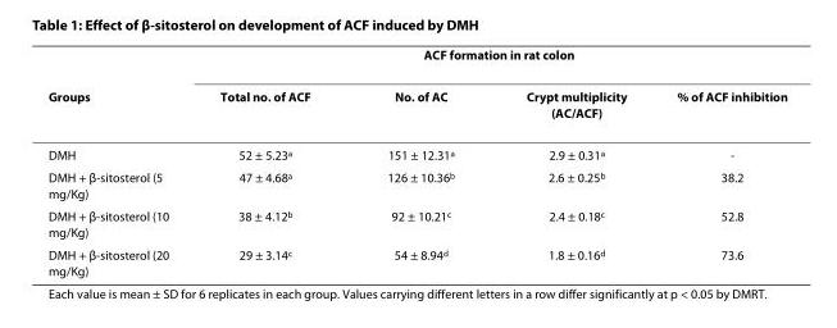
<table><thead><tr><td rowspan="2">Groups</td><td colspan="4">ACF formation in rat colon</td></tr><tr><td>Total no. of ACF</td><td>No. of AC</td><td>Crypt multiplicity (AC/ACF)</td><td>% of ACF inhibition</td></tr></thead><tbody><tr><td>DMH</td><td>52 ± 5.23<sup>a</sup></td><td>151 ± 12.31<sup>a</sup></td><td>2.9 ± 0.31<sup>a</sup></td><td>-</td></tr><tr><td>DMH + β-sitosterol (5 mg/Kg)</td><td>47 ± 4.68<sup>a</sup></td><td>126 ± 10.36<sup>b</sup></td><td>2.6 ± 0.25<sup>b</sup></td><td>38.2</td></tr><tr><td>DMH + β-sitosterol (10 mg/Kg)</td><td>38 ± 4.12<sup>b</sup></td><td>92 ± 10.21<sup>c</sup></td><td>2.4 ± 0.18<sup>c</sup></td><td>52.8</td></tr><tr><td>DMH + β-sitosterol (20 mg/Kg)</td><td>29 ± 3.14<sup>c</sup></td><td>54 ± 8.94<sup>d</sup></td><td>1.8 ± 0.16<sup>d</sup></td><td>73.6</td></tr></tbody></table>